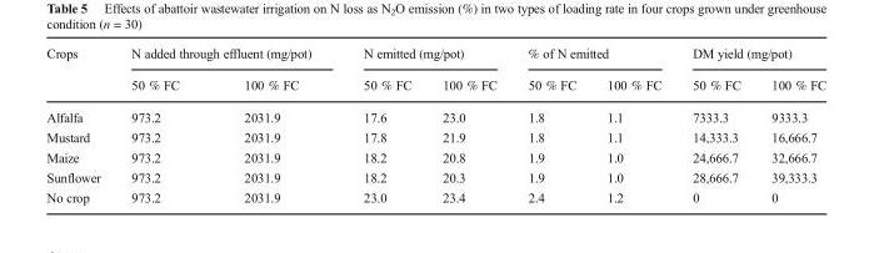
<table><thead><tr><td rowspan="2">Crops</td><td colspan="2">N added through effluent (mg/pot)</td><td colspan="2">N emitted (mg/pot)</td><td colspan="2">% of N emitted</td><td colspan="2">DM yield (mg/pot)</td></tr><tr><td>50 % FC</td><td>100 % FC</td><td>50 % FC</td><td>100 % FC</td><td>50 % FC</td><td>100 % FC</td><td>50 % FC</td><td>100 % FC</td></tr></thead><tbody><tr><td>Alfalfa</td><td>973.2</td><td>2031.9</td><td>17.6</td><td>23.0</td><td>1.8</td><td>1.1</td><td>7333.3</td><td>9333.3</td></tr><tr><td>Mustard</td><td>973.2</td><td>2031.9</td><td>17.8</td><td>21.9</td><td>1.8</td><td>1.1</td><td>14,333.3</td><td>16,666.7</td></tr><tr><td>Maize</td><td>973.2</td><td>2031.9</td><td>18.2</td><td>20.8</td><td>1.9</td><td>1.0</td><td>24,666.7</td><td>32,666.7</td></tr><tr><td>Sunflower</td><td>973.2</td><td>2031.9</td><td>18.2</td><td>20.3</td><td>1.9</td><td>1.0</td><td>28,666.7</td><td>39,333.3</td></tr><tr><td>No crop</td><td>973.2</td><td>2031.9</td><td>23.0</td><td>23.4</td><td>2.4</td><td>1.2</td><td>0</td><td>0</td></tr></tbody></table>